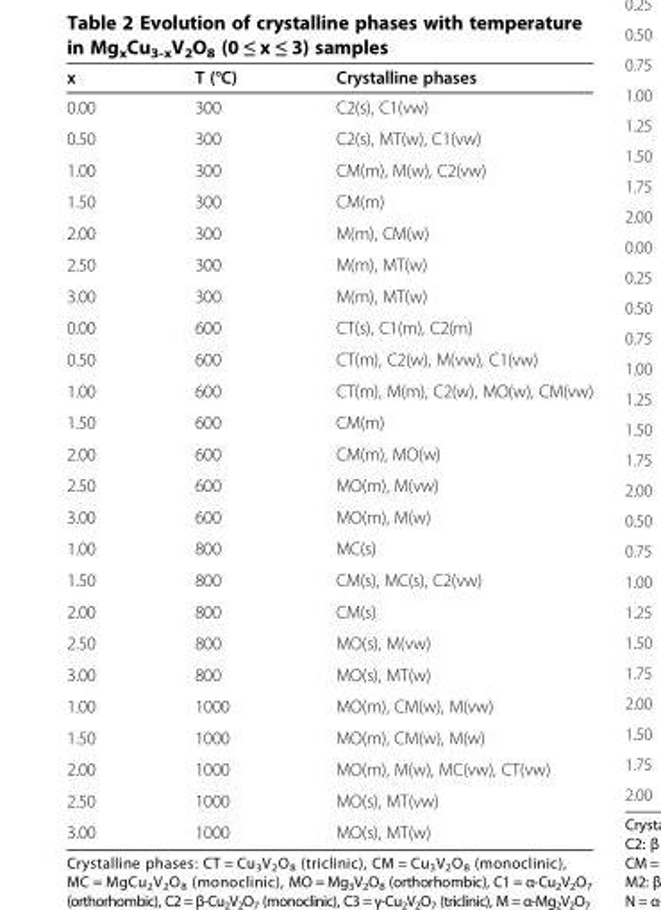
<table><thead><tr><td>x</td><td>T (°C)</td><td>Crystalline phases</td></tr></thead><tbody><tr><td>0.00</td><td>300</td><td>C2(s), C1(vw)</td></tr><tr><td>0.50</td><td>300</td><td>C2(s), MT(w), C1(vw)</td></tr><tr><td>1.00</td><td>300</td><td>CM(m), M(w), C2(vw)</td></tr><tr><td>1.50</td><td>300</td><td>CM(m)</td></tr><tr><td>2.00</td><td>300</td><td>M(m), CM(w)</td></tr><tr><td>2.50</td><td>300</td><td>M(m), MT(w)</td></tr><tr><td>3.00</td><td>300</td><td>M(m), MT(w)</td></tr><tr><td>0.00</td><td>600</td><td>CT(s), C1(m), C2(m)</td></tr><tr><td>0.50</td><td>600</td><td>CT(m), C2(w), M(vw), C1(vw)</td></tr><tr><td>1.00</td><td>600</td><td>CT(m), M(m), C2(w), MO(w), CM(vw)</td></tr><tr><td>1.50</td><td>600</td><td>CM(m)</td></tr><tr><td>2.00</td><td>600</td><td>CM(m), MO(w)</td></tr><tr><td>2.50</td><td>600</td><td>MO(m), M(vw)</td></tr><tr><td>3.00</td><td>600</td><td>MO(m), M(w)</td></tr><tr><td>1.00</td><td>800</td><td>MC(s)</td></tr><tr><td>1.50</td><td>800</td><td>CM(s), MC(s), C2(vw)</td></tr><tr><td>2.00</td><td>800</td><td>CM(s)</td></tr><tr><td>2.50</td><td>800</td><td>MO(s), M(vw)</td></tr><tr><td>3.00</td><td>800</td><td>MO(s), MT(w)</td></tr><tr><td>1.00</td><td>1000</td><td>MO(m), CM(w), M(vw)</td></tr><tr><td>1.50</td><td>1000</td><td>MO(m), CM(w), M(w)</td></tr><tr><td>2.00</td><td>1000</td><td>MO(m), M(w), MC(vw), CT(vw)</td></tr><tr><td>2.50</td><td>1000</td><td>MO(s), MT(vw)</td></tr><tr><td>3.00</td><td>1000</td><td>MO(s), MT(w)</td></tr></tbody></table>